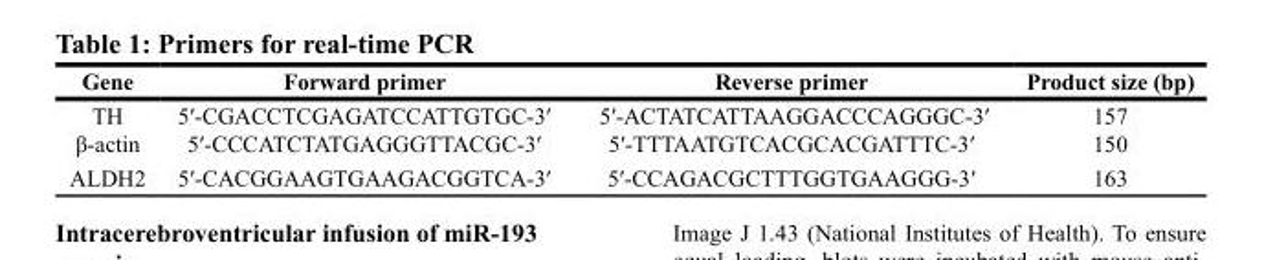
<table><thead><tr><td>Gene</td><td>Forward primer</td><td>Reverse primer</td><td>Product size (bp)</td></tr></thead><tbody><tr><td>TH</td><td>5′-CGACCTCGAGATCCATTGTGC-3′</td><td>5′-ACTATCATTAAGGACCCAGGGC-3′</td><td>157</td></tr><tr><td>β-actin</td><td>5′-CCCATCTATGAGGGTTACGC-3′</td><td>5′-TTTAATGTCACGCACGATTTC-3′</td><td>150</td></tr><tr><td>ALDH2</td><td>5′-CACGGAAGTGAAGACGGTCA-3′</td><td>5′-CCAGACGCTTTGGTGAAGGG-3′</td><td>163</td></tr></tbody></table>